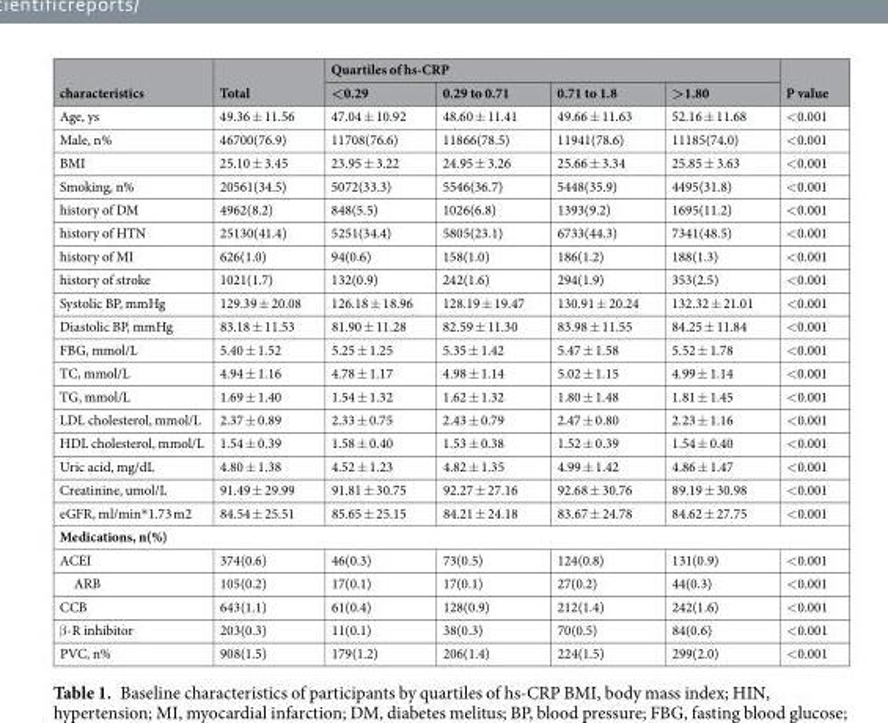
<table><thead><tr><td rowspan="2">characteristics</td><td rowspan="2">Total</td><td colspan="4">Quartiles of hs-CRP</td><td rowspan="2">P value</td></tr><tr><td>&lt;0.29</td><td>0.29 to 0.71</td><td>0.71 to 1.8</td><td>&gt;1.80</td></tr></thead><tbody><tr><td>Age, ys</td><td>49.36 ± 11.56</td><td>47.04 ± 10.92</td><td>48.60 ± 11.41</td><td>49.66 ± 11.63</td><td>52.16 ± 11.68</td><td>&lt;0.001</td></tr><tr><td>Male, n%</td><td>46700(76.9)</td><td>11708(76.6)</td><td>11866(78.5)</td><td>11941(78.6)</td><td>11185(74.0)</td><td>&lt;0.001</td></tr><tr><td>BMI</td><td>25.10 ± 3.45</td><td>23.95 ± 3.22</td><td>24.95 ± 3.26</td><td>25.66 ± 3.34</td><td>25.85 ± 3.63</td><td>&lt;0.001</td></tr><tr><td>Smoking, n%</td><td>20561(34.5)</td><td>5072(33.3)</td><td>5546(36.7)</td><td>5448(35.9)</td><td>4495(31.8)</td><td>&lt;0.001</td></tr><tr><td>history of DM</td><td>4962(8.2)</td><td>848(5.5)</td><td>1026(6.8)</td><td>1393(9.2)</td><td>1695(11.2)</td><td>&lt;0.001</td></tr><tr><td>history of HTN</td><td>25130(41.4)</td><td>5251(34.4)</td><td>5805(23.1)</td><td>6733(44.3)</td><td>7341(48.5)</td><td>&lt;0.001</td></tr><tr><td>history of MI</td><td>626(1.0)</td><td>94(0.6)</td><td>158(1.0)</td><td>186(1.2)</td><td>188(1.3)</td><td>&lt;0.001</td></tr><tr><td>history of stroke</td><td>1021(1.7)</td><td>132(0.9)</td><td>242(1.6)</td><td>294(1.9)</td><td>353(2.5)</td><td>&lt;0.001</td></tr><tr><td>Systolic BP, mmHg</td><td>129.39 ± 20.08</td><td>126.18 ± 18.96</td><td>128.19 ± 19.47</td><td>130.91 ± 20.24</td><td>132.32 ± 21.01</td><td>&lt;0.001</td></tr><tr><td>Diastolic BP, mmHg</td><td>83.18 ± 11.53</td><td>81.90 ± 11.28</td><td>82.59 ± 11.30</td><td>83.98 ± 11.55</td><td>84.25 ± 11.84</td><td>&lt;0.001</td></tr><tr><td>FBG, mmol/L</td><td>5.40 ± 1.52</td><td>5.25 ± 1.25</td><td>5.35 ± 1.42</td><td>5.47 ± 1.58</td><td>5.52 ± 1.78</td><td>&lt;0.001</td></tr><tr><td>TC, mmol/L</td><td>4.94 ± 1.16</td><td>4.78 ± 1.17</td><td>4.98 ± 1.14</td><td>5.02 ± 1.15</td><td>4.99 ± 1.14</td><td>&lt;0.001</td></tr><tr><td>TG, mmol/L</td><td>1.69 ± 1.40</td><td>1.54 ± 1.32</td><td>1.62 ± 1.32</td><td>1.80 ± 1.48</td><td>1.81 ± 1.45</td><td>&lt;0.001</td></tr><tr><td>LDL cholesterol, mmol/L</td><td>2.37 ± 0.89</td><td>2.33 ± 0.75</td><td>2.43 ± 0.79</td><td>2.47 ± 0.80</td><td>2.23 ± 1.16</td><td>&lt;0.001</td></tr><tr><td>HDL cholesterol, mmol/L</td><td>1.54 ± 0.39</td><td>1.58 ± 0.40</td><td>1.53 ± 0.38</td><td>1.52 ± 0.39</td><td>1.54 ± 0.40</td><td>&lt;0.001</td></tr><tr><td>Uric acid, mg/dL</td><td>4.80 ± 1.38</td><td>4.52 ± 1.23</td><td>4.82 ± 1.35</td><td>4.99 ± 1.42</td><td>4.86 ± 1.47</td><td>&lt;0.001</td></tr><tr><td>Creatinine, umol/L</td><td>91.49 ± 29.99</td><td>91.81 ± 30.75</td><td>92.27 ± 27.16</td><td>92.68 ± 30.76</td><td>89.19 ± 30.98</td><td>&lt;0.001</td></tr><tr><td>eGFR, ml/min*1.73 m2</td><td>84.54 ± 25.51</td><td>85.65 ± 25.15</td><td>84.21 ± 24.18</td><td>83.67 ± 24.78</td><td>84.62 ± 27.75</td><td>&lt;0.001</td></tr><tr><td colspan="7">Medications, n(%)</td></tr><tr><td>ACEI</td><td>374(0.6)</td><td>46(0.3)</td><td>73(0.5)</td><td>124(0.8)</td><td>131(0.9)</td><td>&lt;0.001</td></tr><tr><td>ARB</td><td>105(0.2)</td><td>17(0.1)</td><td>17(0.1)</td><td>27(0.2)</td><td>44(0.3)</td><td>&lt;0.001</td></tr><tr><td>CCB</td><td>643(1.1)</td><td>61(0.4)</td><td>128(0.9)</td><td>212(1.4)</td><td>242(1.6)</td><td>&lt;0.001</td></tr><tr><td>β-R inhibitor</td><td>203(0.3)</td><td>11(0.1)</td><td>38(0.3)</td><td>70(0.5)</td><td>84(0.6)</td><td>&lt;0.001</td></tr><tr><td>PVC, n%</td><td>908(1.5)</td><td>179(1.2)</td><td>206(1.4)</td><td>224(1.5)</td><td>299(2.0)</td><td>&lt;0.001</td></tr></tbody></table>